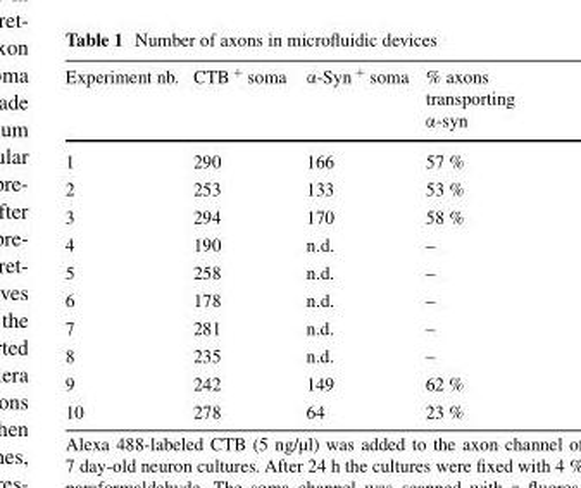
<table><thead><tr><td>Experiment nb.</td><td>CTB <sup>+</sup> soma</td><td>α-Syn <sup>+</sup> soma</td><td>% axons transporting α-syn</td></tr></thead><tbody><tr><td>1</td><td>290</td><td>166</td><td>57 %</td></tr><tr><td>2</td><td>253</td><td>133</td><td>53 %</td></tr><tr><td>3</td><td>294</td><td>170</td><td>58 %</td></tr><tr><td>4</td><td>190</td><td>n.d.</td><td>–</td></tr><tr><td>5</td><td>258</td><td>n.d.</td><td>–</td></tr><tr><td>6</td><td>178</td><td>n.d.</td><td>–</td></tr><tr><td>7</td><td>281</td><td>n.d.</td><td>–</td></tr><tr><td>8</td><td>235</td><td>n.d.</td><td>–</td></tr><tr><td>9</td><td>242</td><td>149</td><td>62 %</td></tr><tr><td>10</td><td>278</td><td>64</td><td>23 %</td></tr></tbody></table>